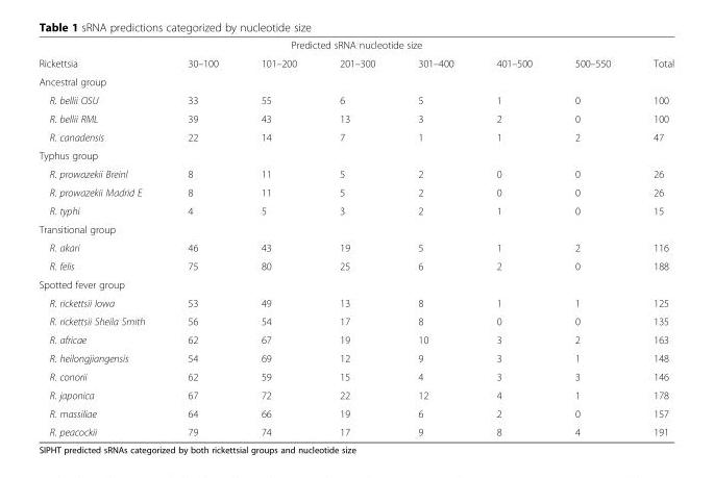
<table><tbody><tr><td colspan="8">Predicted sRNA nucleotide size</td></tr><tr><td>Rickettsia</td><td>30–100</td><td>101–200</td><td>201–300</td><td>301–400</td><td>401–500</td><td>500–550</td><td>Total</td></tr><tr><td colspan="8">Ancestral group</td></tr><tr><td>R. bellii OSU</td><td>33</td><td>55</td><td>6</td><td>5</td><td>1</td><td>0</td><td>100</td></tr><tr><td>R. bellii RML</td><td>39</td><td>43</td><td>13</td><td>3</td><td>2</td><td>0</td><td>100</td></tr><tr><td>R. canadensis</td><td>22</td><td>14</td><td>7</td><td>1</td><td>1</td><td>2</td><td>47</td></tr><tr><td colspan="8">Typhus group</td></tr><tr><td>R. prowazekii Breinl</td><td>8</td><td>11</td><td>5</td><td>2</td><td>0</td><td>0</td><td>26</td></tr><tr><td>R. prowazekii Madrid E</td><td>8</td><td>11</td><td>5</td><td>2</td><td>0</td><td>0</td><td>26</td></tr><tr><td>R. typhi</td><td>4</td><td>5</td><td>3</td><td>2</td><td>1</td><td>0</td><td>15</td></tr><tr><td colspan="8">Transitional group</td></tr><tr><td>R. akari</td><td>46</td><td>43</td><td>19</td><td>5</td><td>1</td><td>2</td><td>116</td></tr><tr><td>R. felis</td><td>75</td><td>80</td><td>25</td><td>6</td><td>2</td><td>0</td><td>188</td></tr><tr><td colspan="8">Spotted fever group</td></tr><tr><td>R. rickettsii Iowa</td><td>53</td><td>49</td><td>13</td><td>8</td><td>1</td><td>1</td><td>125</td></tr><tr><td>R. rickettsii Sheila Smith</td><td>56</td><td>54</td><td>17</td><td>8</td><td>0</td><td>0</td><td>135</td></tr><tr><td>R. africae</td><td>62</td><td>67</td><td>19</td><td>10</td><td>3</td><td>2</td><td>163</td></tr><tr><td>R. heilongjiangensis</td><td>54</td><td>69</td><td>12</td><td>9</td><td>3</td><td>1</td><td>148</td></tr><tr><td>R. conorii</td><td>62</td><td>59</td><td>15</td><td>4</td><td>3</td><td>3</td><td>146</td></tr><tr><td>R. japonica</td><td>67</td><td>72</td><td>22</td><td>12</td><td>4</td><td>1</td><td>178</td></tr><tr><td>R. massiliae</td><td>64</td><td>66</td><td>19</td><td>6</td><td>2</td><td>0</td><td>157</td></tr><tr><td>R. peacockii</td><td>79</td><td>74</td><td>17</td><td>9</td><td>8</td><td>4</td><td>191</td></tr></tbody></table>